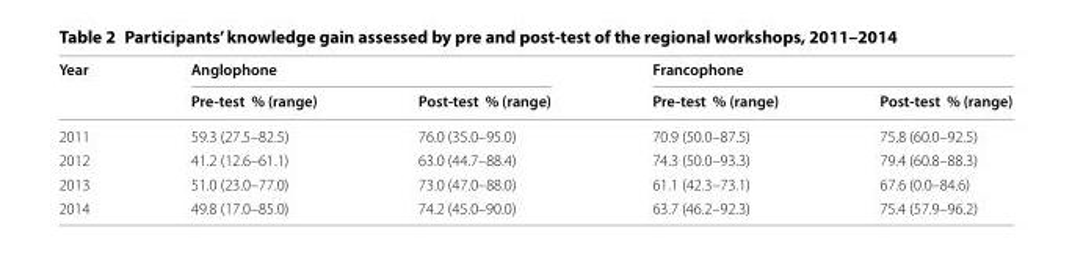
<table><thead><tr><td rowspan="2">Year</td><td colspan="2">Anglophone</td><td colspan="2">Francophone</td></tr><tr><td>Pre‑test % (range)</td><td>Post‑test % (range)</td><td>Pre‑test % (range)</td><td>Post‑test % (range)</td></tr></thead><tbody><tr><td>2011</td><td>59.3 (27.5–82.5)</td><td>76.0 (35.0–95.0)</td><td>70.9 (50.0–87.5)</td><td>75.8 (60.0–92.5)</td></tr><tr><td>2012</td><td>41.2 (12.6–61.1)</td><td>63.0 (44.7–88.4)</td><td>74.3 (50.0–93.3)</td><td>79.4 (60.8–88.3)</td></tr><tr><td>2013</td><td>51.0 (23.0–77.0)</td><td>73.0 (47.0–88.0)</td><td>61.1 (42.3–73.1)</td><td>67.6 (0.0–84.6)</td></tr><tr><td>2014</td><td>49.8 (17.0–85.0)</td><td>74.2 (45.0–90.0)</td><td>63.7 (46.2–92.3)</td><td>75.4 (57.9–96.2)</td></tr></tbody></table>